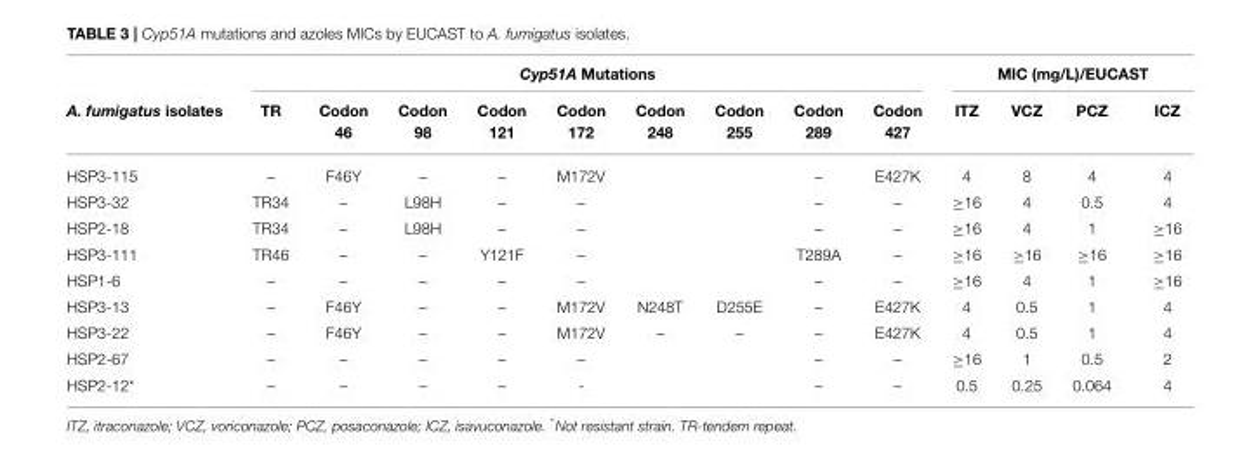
<table><thead><tr><td rowspan="3">A. fumigatus isolates</td><td colspan="9">Cyp51A Mutations</td><td colspan="4">MIC (mg/L)/EUCAST</td></tr><tr><td rowspan="2">TR</td><td rowspan="2">Codon 46</td><td rowspan="2">Codon 98</td><td rowspan="2">Codon 121</td><td rowspan="2">Codon 172</td><td rowspan="2">Codon 248</td><td rowspan="2">Codon 255</td><td rowspan="2">Codon 289</td><td rowspan="2">Codon 427</td><td rowspan="2">ITZ</td><td rowspan="2">VCZ</td><td rowspan="2">PCZ</td><td rowspan="2">ICZ</td></tr><tr></tr></thead><tbody><tr><td>HSP3-115</td><td>–</td><td>F46Y</td><td>–</td><td>–</td><td>M172V</td><td></td><td></td><td>–</td><td>E427K</td><td>4</td><td>8</td><td>4</td><td>4</td></tr><tr><td>HSP3-32</td><td>TR34</td><td>–</td><td>L98H</td><td>–</td><td>–</td><td></td><td></td><td>–</td><td>–</td><td>≥16</td><td>4</td><td>0.5</td><td>4</td></tr><tr><td>HSP2-18</td><td>TR34</td><td>–</td><td>L98H</td><td>–</td><td>–</td><td></td><td></td><td>–</td><td>–</td><td>≥16</td><td>4</td><td>1</td><td>≥16</td></tr><tr><td>HSP3-111</td><td>TR46</td><td>–</td><td>–</td><td>Y121F</td><td>–</td><td></td><td></td><td>T289A</td><td>–</td><td>≥16</td><td>≥16</td><td>≥16</td><td>≥16</td></tr><tr><td>HSP1-6</td><td>–</td><td>–</td><td>–</td><td>–</td><td>–</td><td></td><td></td><td>–</td><td>–</td><td>≥16</td><td>4</td><td>1</td><td>≥16</td></tr><tr><td>HSP3-13</td><td>–</td><td>F46Y</td><td>–</td><td>–</td><td>M172V</td><td>N248T</td><td>D255E</td><td>–</td><td>E427K</td><td>4</td><td>0.5</td><td>1</td><td>4</td></tr><tr><td>HSP3-22</td><td>–</td><td>F46Y</td><td>–</td><td>–</td><td>M172V</td><td>–</td><td>–</td><td>–</td><td>E427K</td><td>4</td><td>0.5</td><td>1</td><td>4</td></tr><tr><td>HSP2-67</td><td>–</td><td>–</td><td>–</td><td>–</td><td>–</td><td></td><td></td><td>–</td><td>–</td><td>≥16</td><td>1</td><td>0.5</td><td>2</td></tr><tr><td>HSP2-12*</td><td>–</td><td>–</td><td>–</td><td>–</td><td>-</td><td></td><td></td><td>–</td><td>–</td><td>0.5</td><td>0.25</td><td>0.064</td><td>4</td></tr></tbody></table>